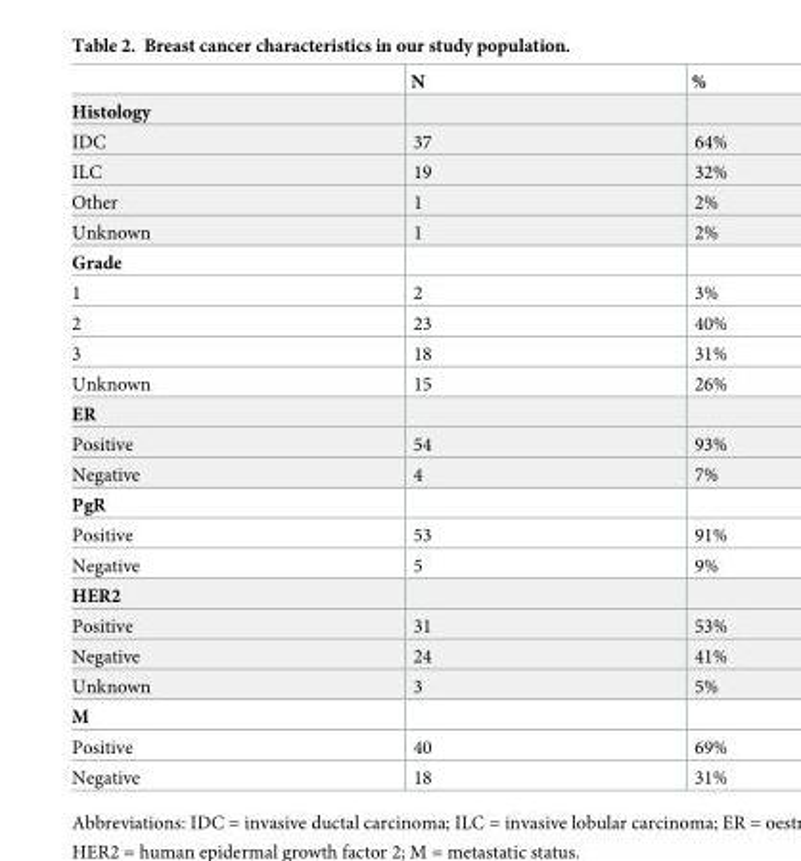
<table><thead><tr><td></td><td>N</td><td>%</td></tr></thead><tbody><tr><td colspan="3">Histology</td></tr><tr><td>IDC</td><td>37</td><td>64%</td></tr><tr><td>ILC</td><td>19</td><td>32%</td></tr><tr><td>Other</td><td>1</td><td>2%</td></tr><tr><td>Unknown</td><td>1</td><td>2%</td></tr><tr><td colspan="3">Grade</td></tr><tr><td>1</td><td>2</td><td>3%</td></tr><tr><td>2</td><td>23</td><td>40%</td></tr><tr><td>3</td><td>18</td><td>31%</td></tr><tr><td>Unknown</td><td>15</td><td>26%</td></tr><tr><td colspan="3">ER</td></tr><tr><td>Positive</td><td>54</td><td>93%</td></tr><tr><td>Negative</td><td>4</td><td>7%</td></tr><tr><td colspan="3">PgR</td></tr><tr><td>Positive</td><td>53</td><td>91%</td></tr><tr><td>Negative</td><td>5</td><td>9%</td></tr><tr><td colspan="3">HER2</td></tr><tr><td>Positive</td><td>31</td><td>53%</td></tr><tr><td>Negative</td><td>24</td><td>41%</td></tr><tr><td>Unknown</td><td>3</td><td>5%</td></tr><tr><td colspan="3">M</td></tr><tr><td>Positive</td><td>40</td><td>69%</td></tr><tr><td>Negative</td><td>18</td><td>31%</td></tr></tbody></table>